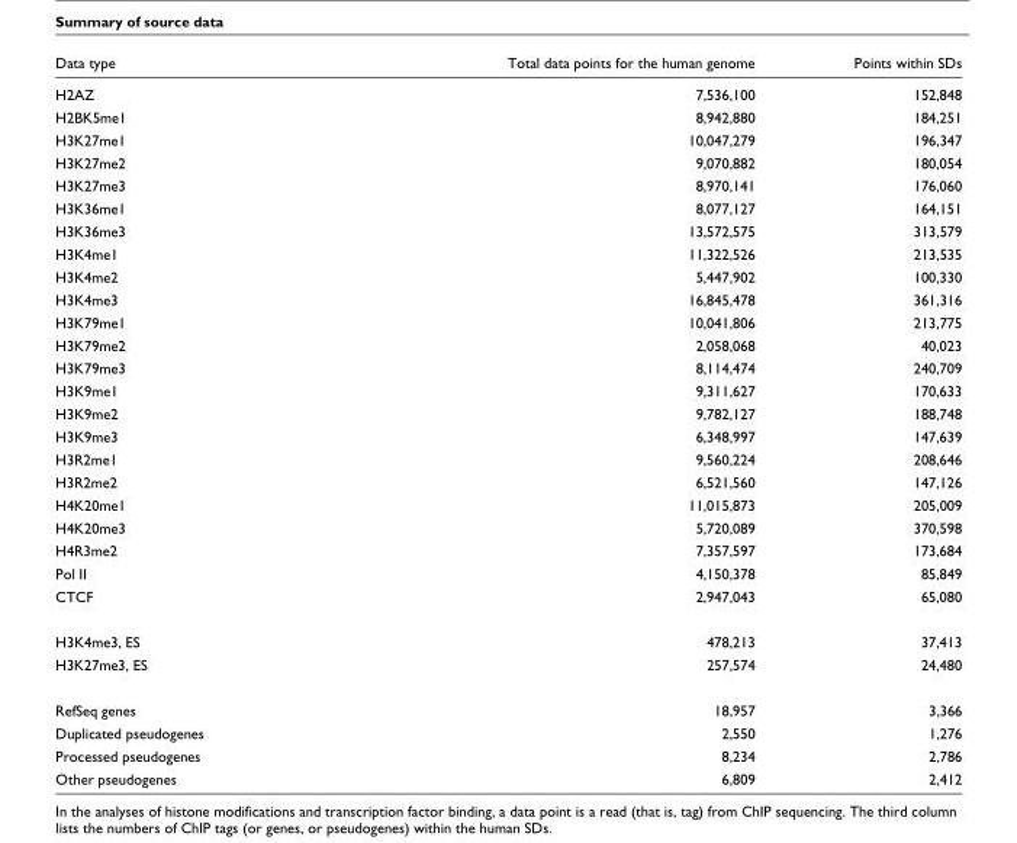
<table><thead><tr><td>Data type</td><td>Total data points for the human genome</td><td>Points within SDs</td></tr></thead><tbody><tr><td>H2AZ</td><td>7,536,100</td><td>152,848</td></tr><tr><td>H2BK5me1</td><td>8,942,880</td><td>184,251</td></tr><tr><td>H3K27me1</td><td>10,047,279</td><td>196,347</td></tr><tr><td>H3K27me2</td><td>9,070,882</td><td>180,054</td></tr><tr><td>H3K27me3</td><td>8,970,141</td><td>176,060</td></tr><tr><td>H3K36me1</td><td>8,077,127</td><td>164,151</td></tr><tr><td>H3K36me3</td><td>13,572,575</td><td>313,579</td></tr><tr><td>H3K4me1</td><td>11,322,526</td><td>213,535</td></tr><tr><td>H3K4me2</td><td>5,447,902</td><td>100,330</td></tr><tr><td>H3K4me3</td><td>16,845,478</td><td>361,316</td></tr><tr><td>H3K79me1</td><td>10,041,806</td><td>213,775</td></tr><tr><td>H3K79me2</td><td>2,058,068</td><td>40,023</td></tr><tr><td>H3K79me3</td><td>8,114,474</td><td>240,709</td></tr><tr><td>H3K9me1</td><td>9,311,627</td><td>170,633</td></tr><tr><td>H3K9me2</td><td>9,782,127</td><td>188,748</td></tr><tr><td>H3K9me3</td><td>6,348,997</td><td>147,639</td></tr><tr><td>H3R2me1</td><td>9,560,224</td><td>208,646</td></tr><tr><td>H3R2me2</td><td>6,521,560</td><td>147,126</td></tr><tr><td>H4K20me1</td><td>11,015,873</td><td>205,009</td></tr><tr><td>H4K20me3</td><td>5,720,089</td><td>370,598</td></tr><tr><td>H4R3me2</td><td>7,357,597</td><td>173,684</td></tr><tr><td>Pol II</td><td>4,150,378</td><td>85,849</td></tr><tr><td>CTCF</td><td>2,947,043</td><td>65,080</td></tr><tr><td>H3K4me3, ES</td><td>478,213</td><td>37,413</td></tr><tr><td>H3K27me3, ES</td><td>257,574</td><td>24,480</td></tr><tr><td>RefSeq genes</td><td>18,957</td><td>3,366</td></tr><tr><td>Duplicated pseudogenes</td><td>2,550</td><td>1,276</td></tr><tr><td>Processed pseudogenes</td><td>8,234</td><td>2,786</td></tr><tr><td>Other pseudogenes</td><td>6,809</td><td>2,412</td></tr></tbody></table>